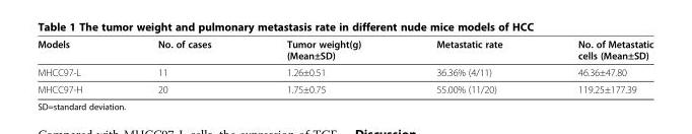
<table><thead><tr><td>Models</td><td>No. of cases</td><td>Tumor weight(g) (Mean±SD)</td><td>Metastatic rate</td><td>No. of Metastatic cells (Mean±SD)</td></tr></thead><tbody><tr><td>MHCC97-L</td><td>11</td><td>1.26±0.51</td><td>36.36% (4/11)</td><td>46.36±47.80</td></tr><tr><td>MHCC97-H</td><td>20</td><td>1.75±0.75</td><td>55.00% (11/20)</td><td>119.25±177.39</td></tr></tbody></table>